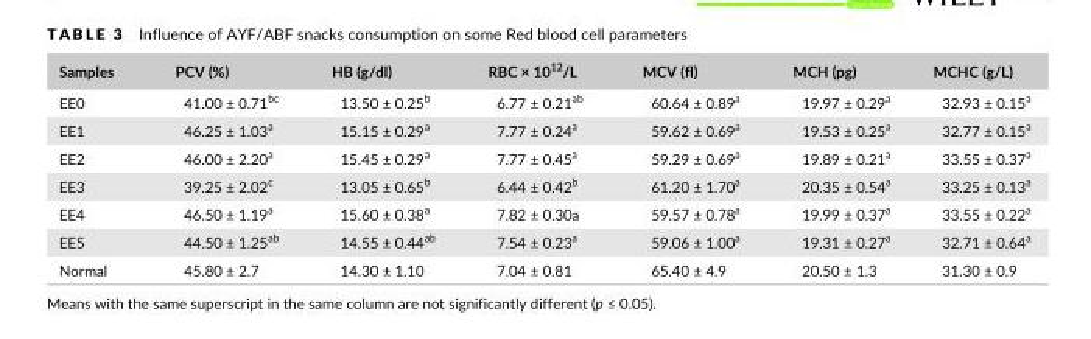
<table><thead><tr><td>Samples</td><td>PCV (%)</td><td>HB (g/dl)</td><td>RBC × 10<sup>12</sup>/L</td><td>MCV (fl)</td><td>MCH (pg)</td><td>MCHC (g/L)</td></tr></thead><tbody><tr><td>EE0</td><td>41.00 ± 0.71<sup>bc</sup></td><td>13.50 ± 0.25<sup>b</sup></td><td>6.77 ± 0.21<sup>ab</sup></td><td>60.64 ± 0.89<sup>a</sup></td><td>19.97 ± 0.29<sup>a</sup></td><td>32.93 ± 0.15<sup>a</sup></td></tr><tr><td>EE1</td><td>46.25 ± 1.03<sup>a</sup></td><td>15.15 ± 0.29<sup>a</sup></td><td>7.77 ± 0.24<sup>a</sup></td><td>59.62 ± 0.69<sup>a</sup></td><td>19.53 ± 0.25<sup>a</sup></td><td>32.77 ± 0.15<sup>a</sup></td></tr><tr><td>EE2</td><td>46.00 ± 2.20<sup>a</sup></td><td>15.45 ± 0.29<sup>a</sup></td><td>7.77 ± 0.45<sup>a</sup></td><td>59.29 ± 0.69<sup>a</sup></td><td>19.89 ± 0.21<sup>a</sup></td><td>33.55 ± 0.37<sup>a</sup></td></tr><tr><td>EE3</td><td>39.25 ± 2.02<sup>c</sup></td><td>13.05 ± 0.65<sup>b</sup></td><td>6.44 ± 0.42<sup>b</sup></td><td>61.20 ± 1.70<sup>a</sup></td><td>20.35 ± 0.54<sup>a</sup></td><td>33.25 ± 0.13<sup>a</sup></td></tr><tr><td>EE4</td><td>46.50 ± 1.19<sup>a</sup></td><td>15.60 ± 0.38<sup>a</sup></td><td>7.82 ± 0.30a</td><td>59.57 ± 0.78<sup>a</sup></td><td>19.99 ± 0.37<sup>a</sup></td><td>33.55 ± 0.22<sup>a</sup></td></tr><tr><td>EE5</td><td>44.50 ± 1.25<sup>ab</sup></td><td>14.55 ± 0.44<sup>ab</sup></td><td>7.54 ± 0.23<sup>a</sup></td><td>59.06 ± 1.00<sup>a</sup></td><td>19.31 ± 0.27<sup>a</sup></td><td>32.71 ± 0.64<sup>a</sup></td></tr><tr><td>Normal</td><td>45.80 ± 2.7</td><td>14.30 ± 1.10</td><td>7.04 ± 0.81</td><td>65.40 ± 4.9</td><td>20.50 ± 1.3</td><td>31.30 ± 0.9</td></tr></tbody></table>